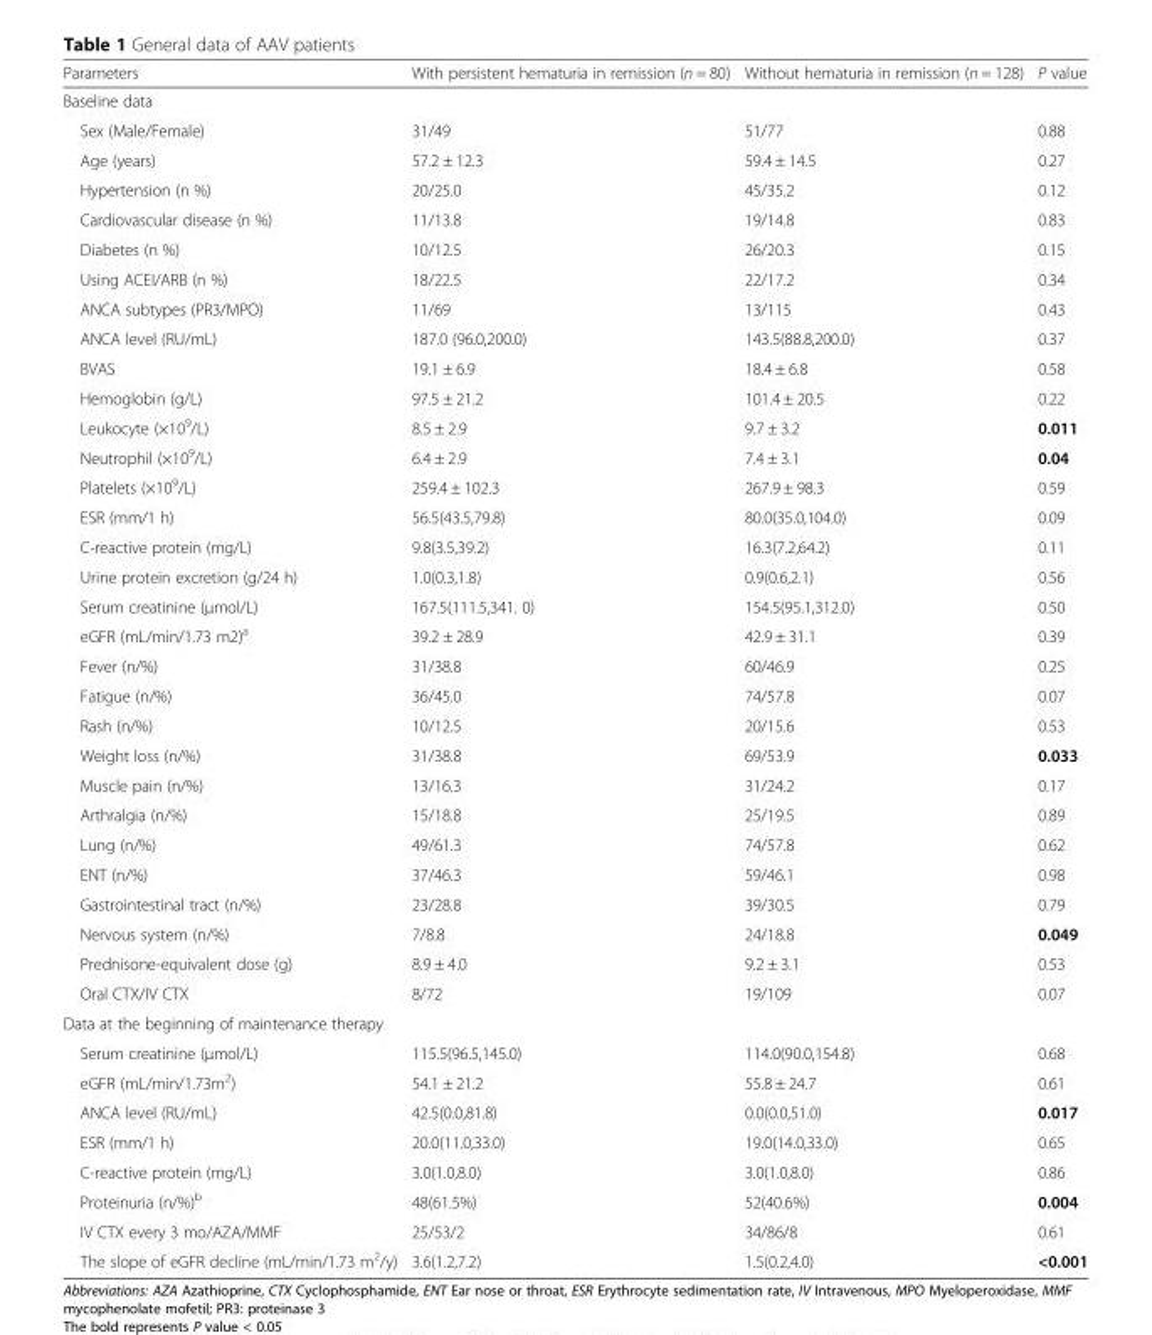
<table><thead><tr><td>Parameters</td><td>With persistent hematuria in remission (n = 80)</td><td>Without hematuria in remission (n = 128)</td><td>P value</td></tr></thead><tbody><tr><td colspan="4">Baseline data</td></tr><tr><td>Sex (Male/Female)</td><td>31/49</td><td>51/77</td><td>0.88</td></tr><tr><td>Age (years)</td><td>57.2 ± 12.3</td><td>59.4 ± 14.5</td><td>0.27</td></tr><tr><td>Hypertension (n %)</td><td>20/25.0</td><td>45/35.2</td><td>0.12</td></tr><tr><td>Cardiovascular disease (n %)</td><td>11/13.8</td><td>19/14.8</td><td>0.83</td></tr><tr><td>Diabetes (n %)</td><td>10/12.5</td><td>26/20.3</td><td>0.15</td></tr><tr><td>Using ACEI/ARB (n %)</td><td>18/22.5</td><td>22/17.2</td><td>0.34</td></tr><tr><td>ANCA subtypes (PR3/MPO)</td><td>11/69</td><td>13/115</td><td>0.43</td></tr><tr><td>ANCA level (RU/mL)</td><td>187.0 (96.0,200.0)</td><td>143.5(88.8,200.0)</td><td>0.37</td></tr><tr><td>BVAS</td><td>19.1 ± 6.9</td><td>18.4 ± 6.8</td><td>0.58</td></tr><tr><td>Hemoglobin (g/L)</td><td>97.5 ± 21.2</td><td>101.4 ± 20.5</td><td>0.22</td></tr><tr><td>Leukocyte (×10<sup>9</sup>/L)</td><td>8.5 ± 2.9</td><td>9.7 ± 3.2</td><td>0.011</td></tr><tr><td>Neutrophil (×10<sup>9</sup>/L)</td><td>6.4 ± 2.9</td><td>7.4 ± 3.1</td><td>0.04</td></tr><tr><td>Platelets (×10<sup>9</sup>/L)</td><td>259.4 ± 102.3</td><td>267.9 ± 98.3</td><td>0.59</td></tr><tr><td>ESR (mm/1 h)</td><td>56.5(43.5,79.8)</td><td>80.0(35.0,104.0)</td><td>0.09</td></tr><tr><td>C-reactive protein (mg/L)</td><td>9.8(3.5,39.2)</td><td>16.3(7.2,64.2)</td><td>0.11</td></tr><tr><td>Urine protein excretion (g/24 h)</td><td>1.0(0.3,1.8)</td><td>0.9(0.6,2.1)</td><td>0.56</td></tr><tr><td>Serum creatinine (μmol/L)</td><td>167.5(111.5,341. 0)</td><td>154.5(95.1,312.0)</td><td>0.50</td></tr><tr><td>eGFR (mL/min/1.73 m2)<sup>a</sup></td><td>39.2 ± 28.9</td><td>42.9 ± 31.1</td><td>0.39</td></tr><tr><td>Fever (n/%)</td><td>31/38.8</td><td>60/46.9</td><td>0.25</td></tr><tr><td>Fatigue (n/%)</td><td>36/45.0</td><td>74/57.8</td><td>0.07</td></tr><tr><td>Rash (n/%)</td><td>10/12.5</td><td>20/15.6</td><td>0.53</td></tr><tr><td>Weight loss (n/%)</td><td>31/38.8</td><td>69/53.9</td><td>0.033</td></tr><tr><td>Muscle pain (n/%)</td><td>13/16.3</td><td>31/24.2</td><td>0.17</td></tr><tr><td>Arthralgia (n/%)</td><td>15/18.8</td><td>25/19.5</td><td>0.89</td></tr><tr><td>Lung (n/%)</td><td>49/61.3</td><td>74/57.8</td><td>0.62</td></tr><tr><td>ENT (n/%)</td><td>37/46.3</td><td>59/46.1</td><td>0.98</td></tr><tr><td>Gastrointestinal tract (n/%)</td><td>23/28.8</td><td>39/30.5</td><td>0.79</td></tr><tr><td>Nervous system (n/%)</td><td>7/8.8</td><td>24/18.8</td><td>0.049</td></tr><tr><td>Prednisone-equivalent dose (g)</td><td>8.9 ± 4.0</td><td>9.2 ± 3.1</td><td>0.53</td></tr><tr><td>Oral CTX/IV CTX</td><td>8/72</td><td>19/109</td><td>0.07</td></tr><tr><td colspan="4">Data at the beginning of maintenance therapy</td></tr><tr><td>Serum creatinine (μmol/L)</td><td>115.5(96.5,145.0)</td><td>114.0(90.0,154.8)</td><td>0.68</td></tr><tr><td>eGFR (mL/min/1.73m<sup>2</sup>)</td><td>54.1 ± 21.2</td><td>55.8 ± 24.7</td><td>0.61</td></tr><tr><td>ANCA level (RU/mL)</td><td>42.5(0.0,81.8)</td><td>0.0(0.0,51.0)</td><td>0.017</td></tr><tr><td>ESR (mm/1 h)</td><td>20.0(11.0,33.0)</td><td>19.0(14.0,33.0)</td><td>0.65</td></tr><tr><td>C-reactive protein (mg/L)</td><td>3.0(1.0,8.0)</td><td>3.0(1.0,8.0)</td><td>0.86</td></tr><tr><td>Proteinuria (n/%)<sup>b</sup></td><td>48(61.5%)</td><td>52(40.6%)</td><td>0.004</td></tr><tr><td>IV CTX every 3 mo/AZA/MMF</td><td>25/53/2</td><td>34/86/8</td><td>0.61</td></tr><tr><td>The slope of eGFR decline (mL/min/1.73 m<sup>2</sup>/y)</td><td>3.6(1.2,7.2)</td><td>1.5(0.2,4.0)</td><td>&lt;0.001</td></tr></tbody></table>